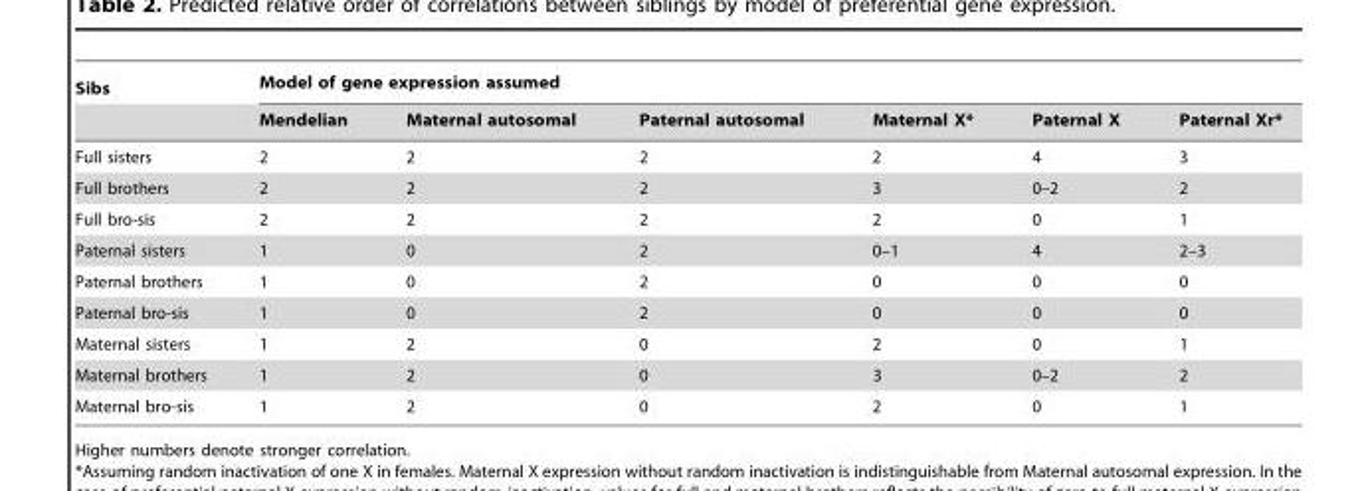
<table><thead><tr><td rowspan="2">Sibs</td><td colspan="6">Model of gene expression assumed</td></tr><tr><td>Mendelian</td><td>Maternal autosomal</td><td>Paternal autosomal</td><td>Maternal X*</td><td>Paternal X</td><td>Paternal Xr*</td></tr></thead><tbody><tr><td>Full sisters</td><td>2</td><td>2</td><td>2</td><td>2</td><td>4</td><td>3</td></tr><tr><td>Full brothers</td><td>2</td><td>2</td><td>2</td><td>3</td><td>0–2</td><td>2</td></tr><tr><td>Full bro-sis</td><td>2</td><td>2</td><td>2</td><td>2</td><td>0</td><td>1</td></tr><tr><td>Paternal sisters</td><td>1</td><td>0</td><td>2</td><td>0–1</td><td>4</td><td>2–3</td></tr><tr><td>Paternal brothers</td><td>1</td><td>0</td><td>2</td><td>0</td><td>0</td><td>0</td></tr><tr><td>Paternal bro-sis</td><td>1</td><td>0</td><td>2</td><td>0</td><td>0</td><td>0</td></tr><tr><td>Maternal sisters</td><td>1</td><td>2</td><td>0</td><td>2</td><td>0</td><td>1</td></tr><tr><td>Maternal brothers</td><td>1</td><td>2</td><td>0</td><td>3</td><td>0–2</td><td>2</td></tr><tr><td>Maternal bro-sis</td><td>1</td><td>2</td><td>0</td><td>2</td><td>0</td><td>1</td></tr></tbody></table>